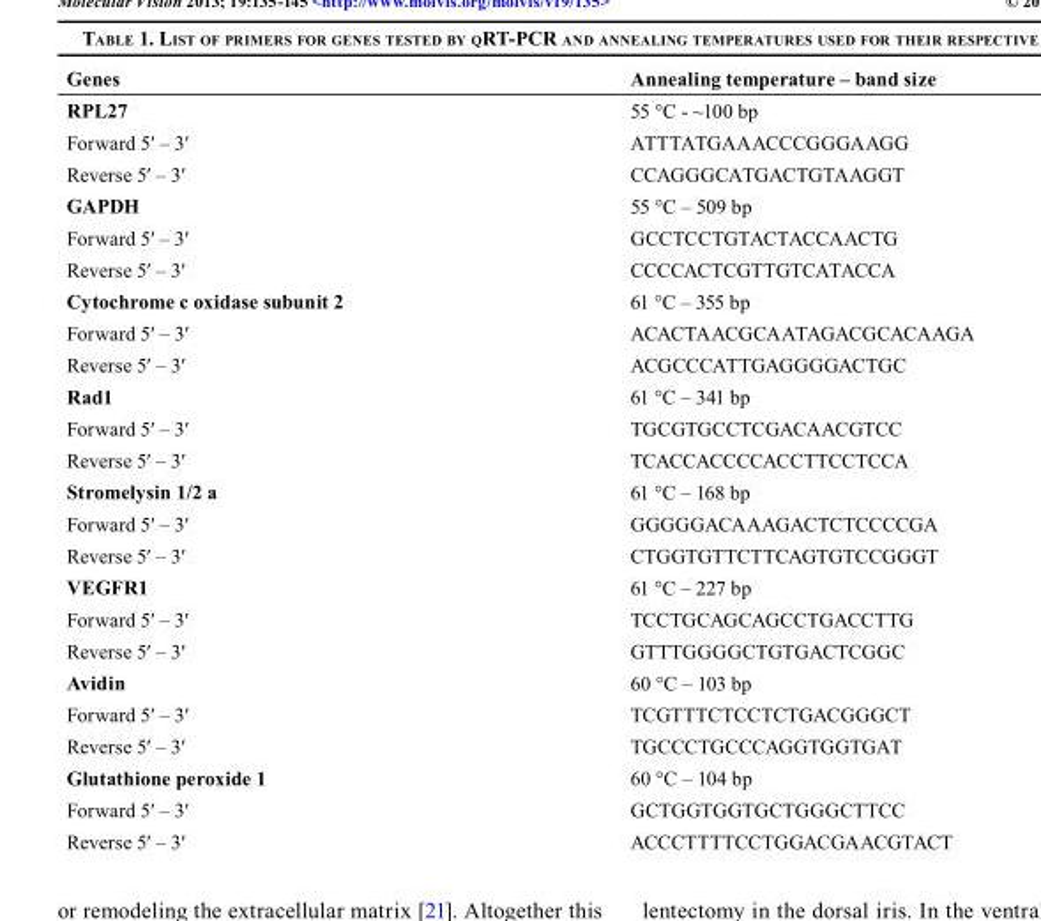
<table><thead><tr><td>Genes</td><td>Annealing temperature – band size</td></tr></thead><tbody><tr><td>RPL27</td><td>55 °C - ~100 bp</td></tr><tr><td>Forward 5′ – 3′</td><td>ATTTATGAAACCCGGGAAGG</td></tr><tr><td>Reverse 5′ – 3′</td><td>CCAGGGCATGACTGTAAGGT</td></tr><tr><td>GAPDH</td><td>55 °C – 509 bp</td></tr><tr><td>Forward 5′ – 3′</td><td>GCCTCCTGTACTACCAACTG</td></tr><tr><td>Reverse 5′ – 3′</td><td>CCCCACTCGTTGTCATACCA</td></tr><tr><td>Cytochrome c oxidase subunit 2</td><td>61 °C – 355 bp</td></tr><tr><td>Forward 5′ – 3′</td><td>ACACTAACGCAATAGACGCACAAGA</td></tr><tr><td>Reverse 5′ – 3′</td><td>ACGCCCATTGAGGGGACTGC</td></tr><tr><td>Rad1</td><td>61 °C – 341 bp</td></tr><tr><td>Forward 5′ – 3′</td><td>TGCGTGCCTCGACAACGTCC</td></tr><tr><td>Reverse 5′ – 3′</td><td>TCACCACCCCACCTTCCTCCA</td></tr><tr><td>Stromelysin 1/2 a</td><td>61 °C – 168 bp</td></tr><tr><td>Forward 5′ – 3′</td><td>GGGGGACAAAGACTCTCCCCGA</td></tr><tr><td>Reverse 5′ – 3′</td><td>CTGGTGTTCTTCAGTGTCCGGGT</td></tr><tr><td>VEGFR1</td><td>61 °C – 227 bp</td></tr><tr><td>Forward 5′ – 3′</td><td>TCCTGCAGCAGCCTGACCTTG</td></tr><tr><td>Reverse 5′ – 3′</td><td>GTTTGGGGCTGTGACTCGGC</td></tr><tr><td>Avidin</td><td>60 °C – 103 bp</td></tr><tr><td>Forward 5′ – 3′</td><td>TCGTTTCTCCTCTGACGGGCT</td></tr><tr><td>Reverse 5′ – 3′</td><td>TGCCCTGCCCAGGTGGTGAT</td></tr><tr><td>Glutathione peroxide 1</td><td>60 °C – 104 bp</td></tr><tr><td>Forward 5′ – 3′</td><td>GCTGGTGGTGCTGGGCTTCC</td></tr><tr><td>Reverse 5′ – 3′</td><td>ACCCTTTTCCTGGACGAACGTACT</td></tr></tbody></table>